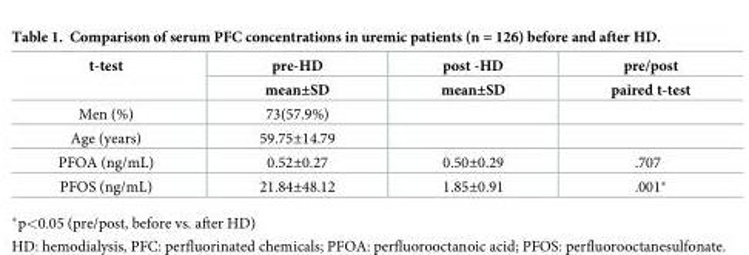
<table><thead><tr><td rowspan="2">t-test</td><td rowspan="2">pre-HD mean±SD</td><td rowspan="2">post -HD mean±SD</td><td rowspan="2">pre/post paired t-test</td></tr><tr></tr></thead><tbody><tr><td>Men (%)</td><td>73(57.9%)</td><td></td><td></td></tr><tr><td>Age (years)</td><td>59.75±14.79</td><td></td><td></td></tr><tr><td>PFOA (ng/mL)</td><td>0.52±0.27</td><td>0.50±0.29</td><td>.707</td></tr><tr><td>PFOS (ng/mL)</td><td>21.84±48.12</td><td>1.85±0.91</td><td>.001*</td></tr></tbody></table>